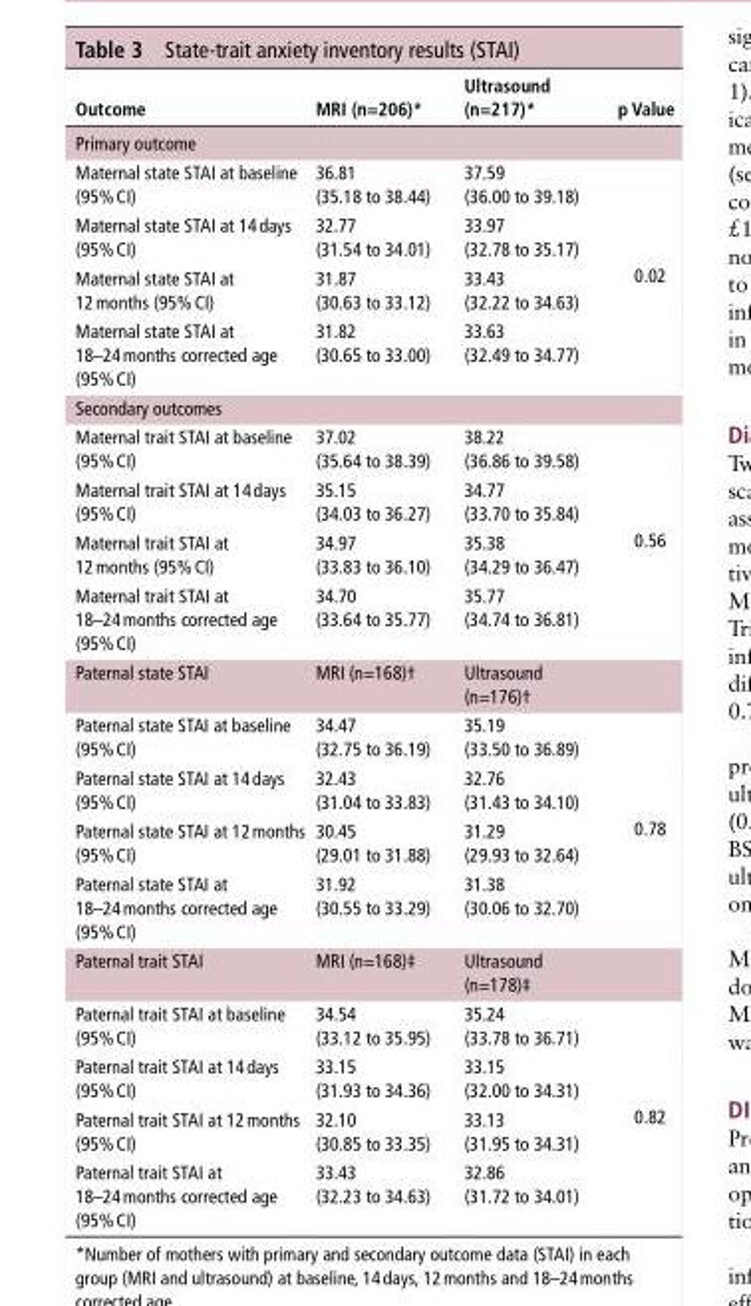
<table><thead><tr><td>outcome</td><td>MrI (n=206)*</td><td>ultrasound (n=217)*</td><td>p Value</td></tr></thead><tbody><tr><td colspan="4">Primary outcome</td></tr><tr><td>Maternal state STAI at baseline (95% CI)</td><td>36.81 (35.18 to 38.44)</td><td>37.59 (36.00 to 39.18)</td><td rowspan="4">0.02</td></tr><tr><td>Maternal state STAI at 14 days (95% CI)</td><td>32.77 (31.54 to 34.01)</td><td>33.97 (32.78 to 35.17)</td></tr><tr><td>Maternal state STAI at 12 months (95% CI)</td><td>31.87 (30.63 to 33.12)</td><td>33.43 (32.22 to 34.63)</td></tr><tr><td>Maternal state STAI at 18–24 months corrected age (95% CI)</td><td>31.82 (30.65 to 33.00)</td><td>33.63 (32.49 to 34.77)</td></tr><tr><td colspan="4">Secondary outcomes</td></tr><tr><td>Maternal trait STAI at baseline (95% CI)</td><td>37.02 (35.64 to 38.39)</td><td>38.22 (36.86 to 39.58)</td><td rowspan="4">0.56</td></tr><tr><td>Maternal trait STAI at 14 days (95% CI)</td><td>35.15 (34.03 to 36.27)</td><td>34.77 (33.70 to 35.84)</td></tr><tr><td>Maternal trait STAI at 12 months (95% CI)</td><td>34.97 (33.83 to 36.10)</td><td>35.38 (34.29 to 36.47)</td></tr><tr><td>Maternal trait STAI at 18–24 months corrected age (95% CI)</td><td>34.70 (33.64 to 35.77)</td><td>35.77 (34.74 to 36.81)</td></tr><tr><td>Paternal state STAI</td><td>MRI (n=168)†</td><td>Ultrasound (n=176)†</td><td></td></tr><tr><td>Paternal state STAI at baseline (95% CI)</td><td>34.47 (32.75 to 36.19)</td><td>35.19 (33.50 to 36.89)</td><td rowspan="4">0.78</td></tr><tr><td>Paternal state STAI at 14 days (95% CI)</td><td>32.43 (31.04 to 33.83)</td><td>32.76 (31.43 to 34.10)</td></tr><tr><td>Paternal state STAI at 12 months (95% CI)</td><td>30.45 (29.01 to 31.88)</td><td>31.29 (29.93 to 32.64)</td></tr><tr><td>Paternal state STAI at 18–24 months corrected age (95% CI)</td><td>31.92 (30.55 to 33.29)</td><td>31.38 (30.06 to 32.70)</td></tr><tr><td>Paternal trait STAI</td><td>MRI (n=168)‡</td><td>Ultrasound (n=178)‡</td><td></td></tr><tr><td>Paternal trait STAI at baseline (95% CI)</td><td>34.54 (33.12 to 35.95)</td><td>35.24 (33.78 to 36.71)</td><td rowspan="4">0.82</td></tr><tr><td>Paternal trait STAI at 14 days (95% CI)</td><td>33.15 (31.93 to 34.36)</td><td>33.15 (32.00 to 34.31)</td></tr><tr><td>Paternal trait STAI at 12 months (95% CI)</td><td>32.10 (30.85 to 33.35)</td><td>33.13 (31.95 to 34.31)</td></tr><tr><td>Paternal trait STAI at 18–24 months corrected age (95% CI)</td><td>33.43 (32.23 to 34.63)</td><td>32.86 (31.72 to 34.01)</td></tr></tbody></table>